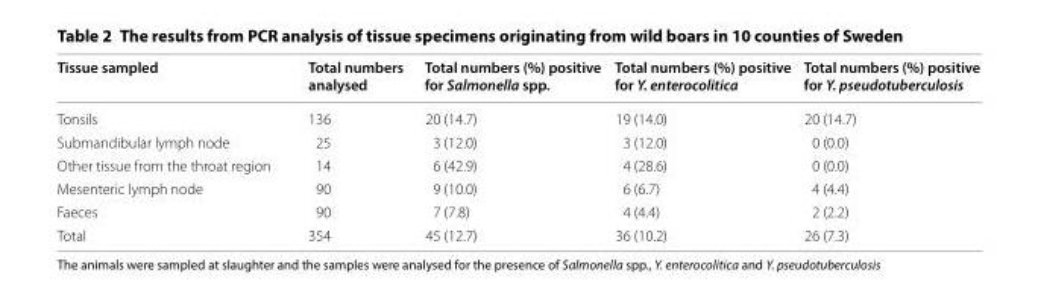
<table><thead><tr><td>Tissue sampled</td><td>Total numbers analysed</td><td>Total numbers (%) positive for Salmonella spp.</td><td>Total numbers (%) positive for Y. enterocolitica</td><td>Total numbers (%) positive for Y. pseudotuberculosis</td></tr></thead><tbody><tr><td>Tonsils</td><td>136</td><td>20 (14.7)</td><td>19 (14.0)</td><td>20 (14.7)</td></tr><tr><td>Submandibular lymph node</td><td>25</td><td>3 (12.0)</td><td>3 (12.0)</td><td>0 (0.0)</td></tr><tr><td>Other tissue from the throat region</td><td>14</td><td>6 (42.9)</td><td>4 (28.6)</td><td>0 (0.0)</td></tr><tr><td>Mesenteric lymph node</td><td>90</td><td>9 (10.0)</td><td>6 (6.7)</td><td>4 (4.4)</td></tr><tr><td>Faeces</td><td>90</td><td>7 (7.8)</td><td>4 (4.4)</td><td>2 (2.2)</td></tr><tr><td>Total</td><td>354</td><td>45 (12.7)</td><td>36 (10.2)</td><td>26 (7.3)</td></tr></tbody></table>